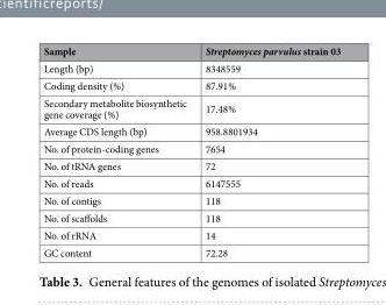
<table><thead><tr><td>Sample</td><td>Streptomyces parvulus strain 03</td></tr></thead><tbody><tr><td>Length (bp)</td><td>8348559</td></tr><tr><td>Coding density (%)</td><td>87.91%</td></tr><tr><td>Secondary metabolite biosynthetic gene coverage (%)</td><td>17.48%</td></tr><tr><td>Average CDS length (bp)</td><td>958.8801934</td></tr><tr><td>No. of protein-coding genes</td><td>7654</td></tr><tr><td>No. of tRNA genes</td><td>72</td></tr><tr><td>No. of reads</td><td>6147555</td></tr><tr><td>No. of contigs</td><td>118</td></tr><tr><td>No. of scaffolds</td><td>118</td></tr><tr><td>No. of rRNA</td><td>14</td></tr><tr><td>GC content</td><td>72.28</td></tr></tbody></table>